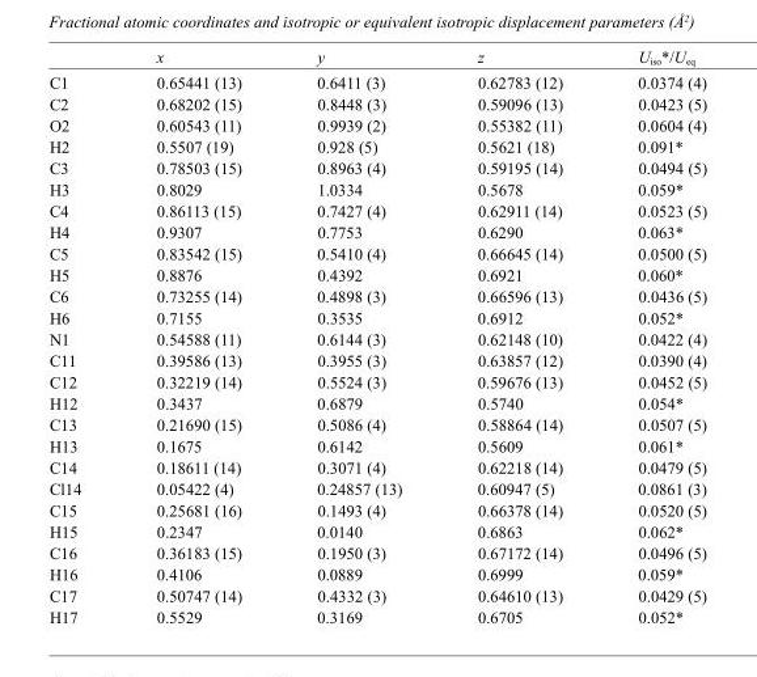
<table><thead><tr><td></td><td>x</td><td>y</td><td>z</td><td>U<sub>iso</sub>*/U<sub>eq</sub></td></tr></thead><tbody><tr><td>C1</td><td>0.65441 (13)</td><td>0.6411 (3)</td><td>0.62783 (12)</td><td>0.0374 (4)</td></tr><tr><td>C2</td><td>0.68202 (15)</td><td>0.8448 (3)</td><td>0.59096 (13)</td><td>0.0423 (5)</td></tr><tr><td>O2</td><td>0.60543 (11)</td><td>0.9939 (2)</td><td>0.55382 (11)</td><td>0.0604 (4)</td></tr><tr><td>H2</td><td>0.5507 (19)</td><td>0.928 (5)</td><td>0.5621 (18)</td><td>0.091*</td></tr><tr><td>C3</td><td>0.78503 (15)</td><td>0.8963 (4)</td><td>0.59195 (14)</td><td>0.0494 (5)</td></tr><tr><td>H3</td><td>0.8029</td><td>1.0334</td><td>0.5678</td><td>0.059*</td></tr><tr><td>C4</td><td>0.86113 (15)</td><td>0.7427 (4)</td><td>0.62911 (14)</td><td>0.0523 (5)</td></tr><tr><td>H4</td><td>0.9307</td><td>0.7753</td><td>0.6290</td><td>0.063*</td></tr><tr><td>C5</td><td>0.83542 (15)</td><td>0.5410 (4)</td><td>0.66645 (14)</td><td>0.0500 (5)</td></tr><tr><td>H5</td><td>0.8876</td><td>0.4392</td><td>0.6921</td><td>0.060*</td></tr><tr><td>C6</td><td>0.73255 (14)</td><td>0.4898 (3)</td><td>0.66596 (13)</td><td>0.0436 (5)</td></tr><tr><td>H6</td><td>0.7155</td><td>0.3535</td><td>0.6912</td><td>0.052*</td></tr><tr><td>N1</td><td>0.54588 (11)</td><td>0.6144 (3)</td><td>0.62148 (10)</td><td>0.0422 (4)</td></tr><tr><td>C11</td><td>0.39586 (13)</td><td>0.3955 (3)</td><td>0.63857 (12)</td><td>0.0390 (4)</td></tr><tr><td>C12</td><td>0.32219 (14)</td><td>0.5524 (3)</td><td>0.59676 (13)</td><td>0.0452 (5)</td></tr><tr><td>H12</td><td>0.3437</td><td>0.6879</td><td>0.5740</td><td>0.054*</td></tr><tr><td>C13</td><td>0.21690 (15)</td><td>0.5086 (4)</td><td>0.58864 (14)</td><td>0.0507 (5)</td></tr><tr><td>H13</td><td>0.1675</td><td>0.6142</td><td>0.5609</td><td>0.061*</td></tr><tr><td>C14</td><td>0.18611 (14)</td><td>0.3071 (4)</td><td>0.62218 (14)</td><td>0.0479 (5)</td></tr><tr><td>Cl14</td><td>0.05422 (4)</td><td>0.24857 (13)</td><td>0.60947 (5)</td><td>0.0861 (3)</td></tr><tr><td>C15</td><td>0.25681 (16)</td><td>0.1493 (4)</td><td>0.66378 (14)</td><td>0.0520 (5)</td></tr><tr><td>H15</td><td>0.2347</td><td>0.0140</td><td>0.6863</td><td>0.062*</td></tr><tr><td>C16</td><td>0.36183 (15)</td><td>0.1950 (3)</td><td>0.67172 (14)</td><td>0.0496 (5)</td></tr><tr><td>H16</td><td>0.4106</td><td>0.0889</td><td>0.6999</td><td>0.059*</td></tr><tr><td>C17</td><td>0.50747 (14)</td><td>0.4332 (3)</td><td>0.64610 (13)</td><td>0.0429 (5)</td></tr><tr><td>H17</td><td>0.5529</td><td>0.3169</td><td>0.6705</td><td>0.052*</td></tr></tbody></table>